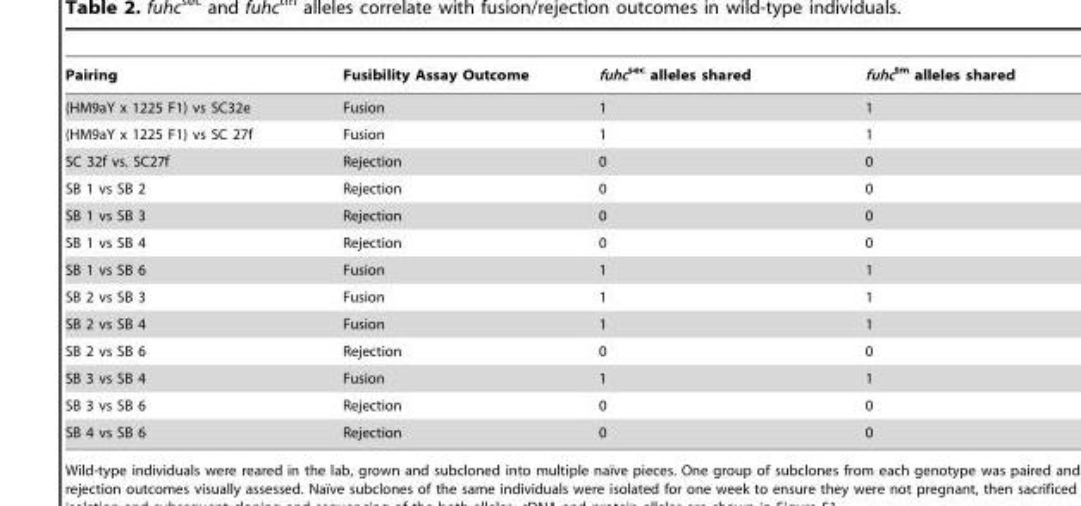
<table><thead><tr><td>Pairing</td><td>Fusibility Assay Outcome</td><td>fuhc<sup>sec</sup> alleles shared</td><td>fuhc<sup>tm</sup> alleles shared</td></tr></thead><tbody><tr><td>(HM9aY x 1225 F1) vs SC32e</td><td>Fusion</td><td>1</td><td>1</td></tr><tr><td>(HM9aY x 1225 F1) vs SC 27f</td><td>Fusion</td><td>1</td><td>1</td></tr><tr><td>SC 32f vs. SC27f</td><td>Rejection</td><td>0</td><td>0</td></tr><tr><td>SB 1 vs SB 2</td><td>Rejection</td><td>0</td><td>0</td></tr><tr><td>SB 1 vs SB 3</td><td>Rejection</td><td>0</td><td>0</td></tr><tr><td>SB 1 vs SB 4</td><td>Rejection</td><td>0</td><td>0</td></tr><tr><td>SB 1 vs SB 6</td><td>Fusion</td><td>1</td><td>1</td></tr><tr><td>SB 2 vs SB 3</td><td>Fusion</td><td>1</td><td>1</td></tr><tr><td>SB 2 vs SB 4</td><td>Fusion</td><td>1</td><td>1</td></tr><tr><td>SB 2 vs SB 6</td><td>Rejection</td><td>0</td><td>0</td></tr><tr><td>SB 3 vs SB 4</td><td>Fusion</td><td>1</td><td>1</td></tr><tr><td>SB 3 vs SB 6</td><td>Rejection</td><td>0</td><td>0</td></tr><tr><td>SB 4 vs SB 6</td><td>Rejection</td><td>0</td><td>0</td></tr></tbody></table>